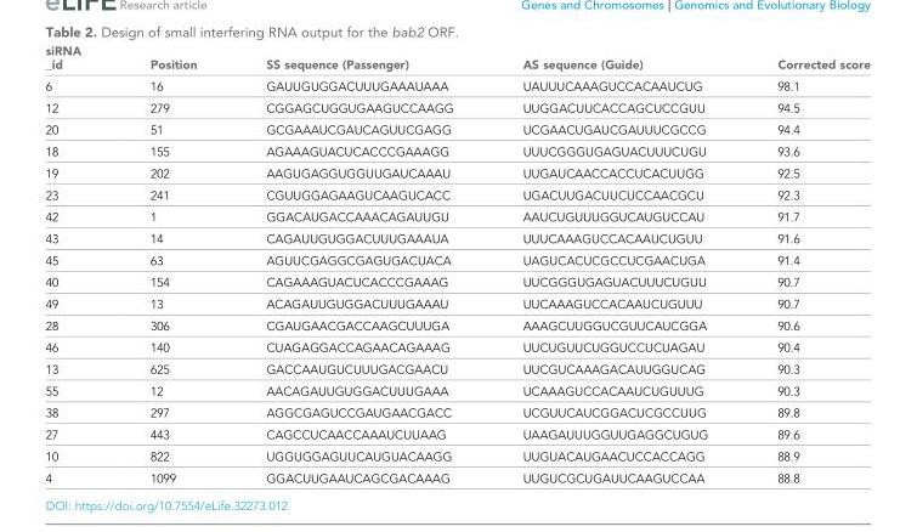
<table><thead><tr><td>siRNA _id</td><td>Position</td><td>SS sequence (Passenger)</td><td>AS sequence (Guide)</td><td>Corrected score</td></tr></thead><tbody><tr><td>6</td><td>16</td><td>GAUUGUGGACUUUGAAAUAAA</td><td>UAUUUCAAAGUCCACAAUCUG</td><td>98.1</td></tr><tr><td>12</td><td>279</td><td>CGGAGCUGGUGAAGUCCAAGG</td><td>UUGGACUUCACCAGCUCCGUU</td><td>94.5</td></tr><tr><td>20</td><td>51</td><td>GCGAAAUCGAUCAGUUCGAGG</td><td>UCGAACUGAUCGAUUUCGCCG</td><td>94.4</td></tr><tr><td>18</td><td>155</td><td>AGAAAGUACUCACCCGAAAGG</td><td>UUUCGGGUGAGUACUUUCUGU</td><td>93.6</td></tr><tr><td>19</td><td>202</td><td>AAGUGAGGUGGUUGAUCAAAU</td><td>UUGAUCAACCACCUCACUUGG</td><td>92.5</td></tr><tr><td>23</td><td>241</td><td>CGUUGGAGAAGUCAAGUCACC</td><td>UGACUUGACUUCUCCAACGCU</td><td>92.3</td></tr><tr><td>42</td><td>1</td><td>GGACAUGACCAAACAGAUUGU</td><td>AAUCUGUUUGGUCAUGUCCAU</td><td>91.7</td></tr><tr><td>43</td><td>14</td><td>CAGAUUGUGGACUUUGAAAUA</td><td>UUUCAAAGUCCACAAUCUGUU</td><td>91.6</td></tr><tr><td>45</td><td>63</td><td>AGUUCGAGGCGAGUGACUACA</td><td>UAGUCACUCGCCUCGAACUGA</td><td>91.4</td></tr><tr><td>40</td><td>154</td><td>CAGAAAGUACUCACCCGAAAG</td><td>UUCGGGUGAGUACUUUCUGUU</td><td>90.7</td></tr><tr><td>49</td><td>13</td><td>ACAGAUUGUGGACUUUGAAAU</td><td>UUCAAAGUCCACAAUCUGUUU</td><td>90.7</td></tr><tr><td>28</td><td>306</td><td>CGAUGAACGACCAAGCUUUGA</td><td>AAAGCUUGGUCGUUCAUCGGA</td><td>90.6</td></tr><tr><td>46</td><td>140</td><td>CUAGAGGACCAGAACAGAAAG</td><td>UUCUGUUCUGGUCCUCUAGAU</td><td>90.4</td></tr><tr><td>13</td><td>625</td><td>GACCAAUGUCUUUGACGAACU</td><td>UUCGUCAAAGACAUUGGUCAG</td><td>90.3</td></tr><tr><td>55</td><td>12</td><td>AACAGAUUGUGGACUUUGAAA</td><td>UCAAAGUCCACAAUCUGUUUG</td><td>90.3</td></tr><tr><td>38</td><td>297</td><td>AGGCGAGUCCGAUGAACGACC</td><td>UCGUUCAUCGGACUCGCCUUG</td><td>89.8</td></tr><tr><td>27</td><td>443</td><td>CAGCCUCAACCAAAUCUUAAG</td><td>UAAGAUUUGGUUGAGGCUGUG</td><td>89.6</td></tr><tr><td>10</td><td>822</td><td>UGGUGGAGUUCAUGUACAAGG</td><td>UUGUACAUGAACUCCACCAGG</td><td>88.9</td></tr><tr><td>4</td><td>1099</td><td>GGACUUGAAUCAGCGACAAAG</td><td>UUGUCGCUGAUUCAAGUCCAA</td><td>88.8</td></tr></tbody></table>